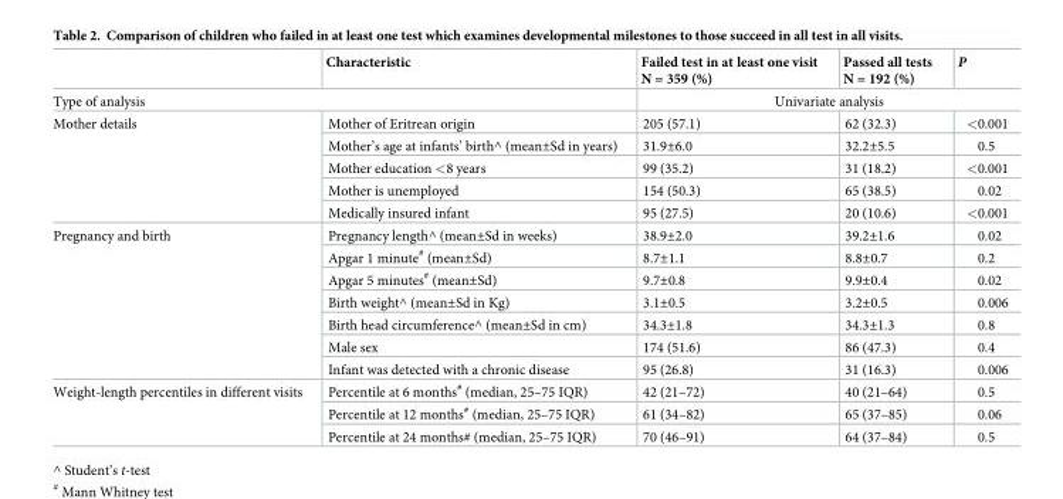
<table><thead><tr><td></td><td>Characteristic</td><td>Failed test in at least one visit N = 359 (%)</td><td>Passed all tests N = 192 (%)</td><td>P</td></tr></thead><tbody><tr><td colspan="2">Type of analysis</td><td colspan="3">Univariate analysis</td></tr><tr><td rowspan="5">Mother details</td><td>Mother of Eritrean origin</td><td>205 (57.1)</td><td>62 (32.3)</td><td>&lt;0.001</td></tr><tr><td>Mother’s age at infants’ birth^ (mean±Sd in years)</td><td>31.9±6.0</td><td>32.2±5.5</td><td>0.5</td></tr><tr><td>Mother education &lt;8 years</td><td>99 (35.2)</td><td>31 (18.2)</td><td>&lt;0.001</td></tr><tr><td>Mother is unemployed</td><td>154 (50.3)</td><td>65 (38.5)</td><td>0.02</td></tr><tr><td>Medically insured infant</td><td>95 (27.5)</td><td>20 (10.6)</td><td>&lt;0.001</td></tr><tr><td rowspan="7">Pregnancy and birth</td><td>Pregnancy length^ (mean±Sd in weeks)</td><td>38.9±2.0</td><td>39.2±1.6</td><td>0.02</td></tr><tr><td>Apgar 1 minute<sup>#</sup> (mean±Sd)</td><td>8.7±1.1</td><td>8.8±0.7</td><td>0.2</td></tr><tr><td>Apgar 5 minutes<sup>#</sup> (mean±Sd)</td><td>9.7±0.8</td><td>9.9±0.4</td><td>0.02</td></tr><tr><td>Birth weight^ (mean±Sd in Kg)</td><td>3.1±0.5</td><td>3.2±0.5</td><td>0.006</td></tr><tr><td>Birth head circumference^ (mean±Sd in cm)</td><td>34.3±1.8</td><td>34.3±1.3</td><td>0.8</td></tr><tr><td>Male sex</td><td>174 (51.6)</td><td>86 (47.3)</td><td>0.4</td></tr><tr><td>Infant was detected with a chronic disease</td><td>95 (26.8)</td><td>31 (16.3)</td><td>0.006</td></tr><tr><td rowspan="3">Weight-length percentiles in different visits</td><td>Percentile at 6 months<sup>#</sup> (median, 25–75 IQR)</td><td>42 (21–72)</td><td>40 (21–64)</td><td>0.5</td></tr><tr><td>Percentile at 12 months<sup>#</sup> (median, 25–75 IQR)</td><td>61 (34–82)</td><td>65 (37–85)</td><td>0.06</td></tr><tr><td>Percentile at 24 months# (median, 25–75 IQR)</td><td>70 (46–91)</td><td>64 (37–84)</td><td>0.5</td></tr></tbody></table>